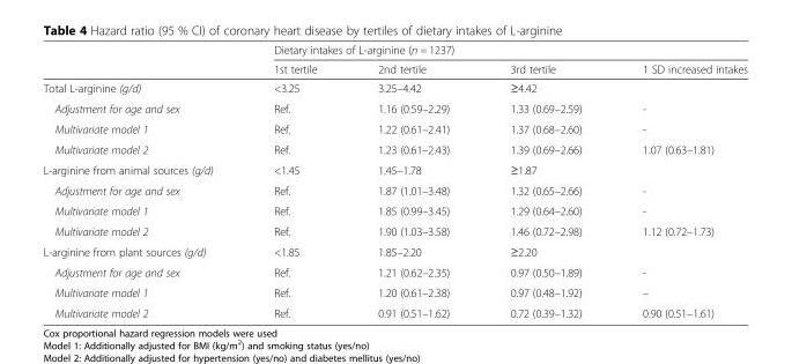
<table><thead><tr><td rowspan="2"></td><td colspan="4">Dietary intakes of L-arginine (n = 1237)</td></tr><tr><td>1st tertile</td><td>2nd tertile</td><td>3rd tertile</td><td>1 SD increased intakes</td></tr></thead><tbody><tr><td>Total L-arginine (g/d)</td><td>&lt;3.25</td><td>3.25–4.42</td><td>≥4.42</td><td></td></tr><tr><td>Adjustment for age and sex</td><td>Ref.</td><td>1.16 (0.59–2.29)</td><td>1.33 (0.69–2.59)</td><td>-</td></tr><tr><td>Multivariate model 1</td><td>Ref.</td><td>1.22 (0.61–2.41)</td><td>1.37 (0.68–2.60)</td><td>-</td></tr><tr><td>Multivariate model 2</td><td>Ref.</td><td>1.23 (0.61–2.43)</td><td>1.39 (0.69–2.66)</td><td>1.07 (0.63–1.81)</td></tr><tr><td>L-arginine from animal sources (g/d)</td><td>&lt;1.45</td><td>1.45–1.78</td><td>≥1.87</td><td></td></tr><tr><td>Adjustment for age and sex</td><td>Ref.</td><td>1.87 (1.01–3.48)</td><td>1.32 (0.65–2.66)</td><td>-</td></tr><tr><td>Multivariate model 1</td><td>Ref.</td><td>1.85 (0.99–3.45)</td><td>1.29 (0.64–2.60)</td><td>-</td></tr><tr><td>Multivariate model 2</td><td>Ref.</td><td>1.90 (1.03–3.58)</td><td>1.46 (0.72–2.98)</td><td>1.12 (0.72–1.73)</td></tr><tr><td>L-arginine from plant sources (g/d)</td><td>&lt;1.85</td><td>1.85–2.20</td><td>≥2.20</td><td></td></tr><tr><td>Adjustment for age and sex</td><td>Ref.</td><td>1.21 (0.62–2.35)</td><td>0.97 (0.50–1.89)</td><td>-</td></tr><tr><td>Multivariate model 1</td><td>Ref.</td><td>1.20 (0.61–2.38)</td><td>0.97 (0.48–1.92)</td><td>–</td></tr><tr><td>Multivariate model 2</td><td>Ref.</td><td>0.91 (0.51–1.62)</td><td>0.72 (0.39–1.32)</td><td>0.90 (0.51–1.61)</td></tr></tbody></table>